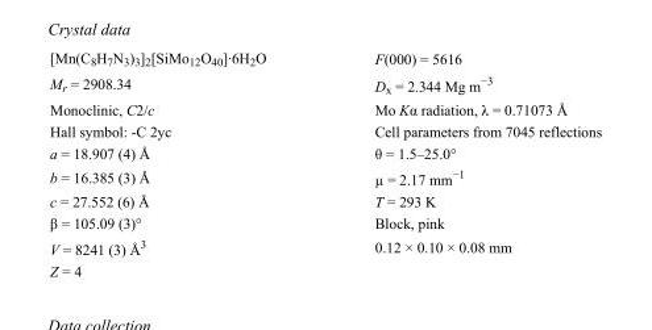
<table><tbody><tr><td>[Mn(C<sub>8</sub>H<sub>7</sub>N<sub>3</sub>)<sub>3</sub>]<sub>2</sub>[SiMo<sub>12</sub>O<sub>40</sub>]·6H<sub>2</sub>O</td><td>F(000) = 5616</td></tr><tr><td>M<sub>r</sub> = 2908.34</td><td>D<sub>x</sub> = 2.344 Mg m<sup>−3</sup></td></tr><tr><td>Monoclinic, C2/c</td><td>Mo Kα radiation, λ = 0.71073 Å</td></tr><tr><td>Hall symbol: -C 2yc</td><td>Cell parameters from 7045 reflections</td></tr><tr><td>a = 18.907 (4) Å</td><td>θ = 1.5–25.0°</td></tr><tr><td>b = 16.385 (3) Å</td><td>µ = 2.17 mm<sup>−1</sup></td></tr><tr><td>c = 27.552 (6) Å</td><td>T = 293 K</td></tr><tr><td>β = 105.09 (3)°</td><td>Block, pink</td></tr><tr><td>V = 8241 (3) Å<sup>3</sup></td><td>0.12 × 0.10 × 0.08 mm</td></tr><tr><td>Z = 4</td><td></td></tr></tbody></table>